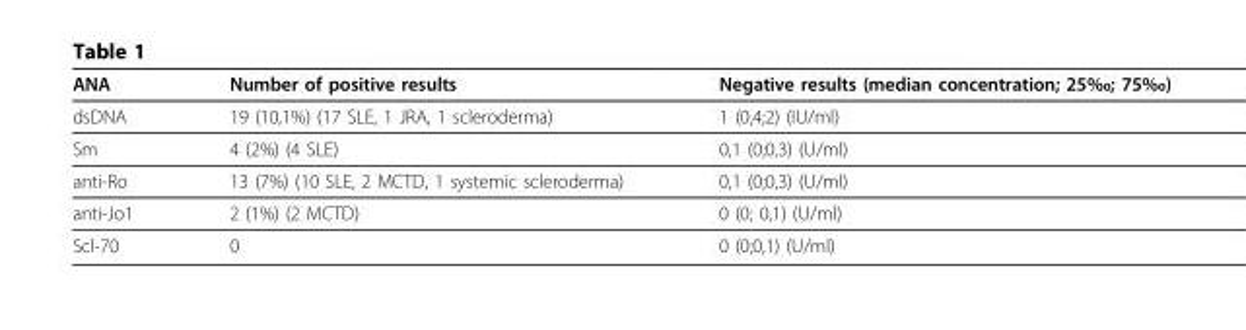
<table><thead><tr><td>ANA</td><td>Number of positive results</td><td>Negative results (median concentration; 25‰; 75‰)</td></tr></thead><tbody><tr><td>dsDNA</td><td>19 (10,1%) (17 SLE, 1 JRA, 1 scleroderma)</td><td>1 (0,4;2) (IU/ml)</td></tr><tr><td>Sm</td><td>4 (2%) (4 SLE)</td><td>0,1 (0;0,3) (U/ml)</td></tr><tr><td>anti-Ro</td><td>13 (7%) (10 SLE, 2 MCTD, 1 systemic scleroderma)</td><td>0,1 (0;0,3) (U/ml)</td></tr><tr><td>anti-Jo1</td><td>2 (1%) (2 MCTD)</td><td>0 (0; 0,1) (U/ml)</td></tr><tr><td>Scl-70</td><td>0</td><td>0 (0;0,1) (U/ml)</td></tr></tbody></table>